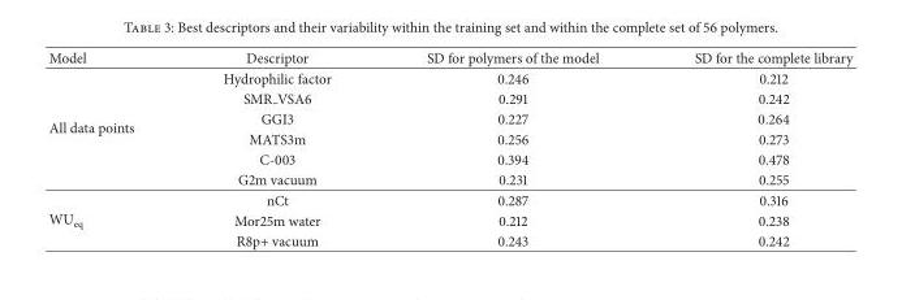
<table><thead><tr><td>Model</td><td>Descriptor</td><td>SD for polymers of the model</td><td>SD for the complete library</td></tr></thead><tbody><tr><td rowspan="6">All data points</td><td>Hydrophilic factor</td><td>0.246</td><td>0.212</td></tr><tr><td>SMR VSA6</td><td>0.291</td><td>0.242</td></tr><tr><td>GGI3</td><td>0.227</td><td>0.264</td></tr><tr><td>MATS3m</td><td>0.256</td><td>0.273</td></tr><tr><td>C-003</td><td>0.394</td><td>0.478</td></tr><tr><td>G2m vacuum</td><td>0.231</td><td>0.255</td></tr><tr><td rowspan="3">WU<sub>eq</sub></td><td>nCt</td><td>0.287</td><td>0.316</td></tr><tr><td>Mor25m water</td><td>0.212</td><td>0.238</td></tr><tr><td>R8p+ vacuum</td><td>0.243</td><td>0.242</td></tr></tbody></table>